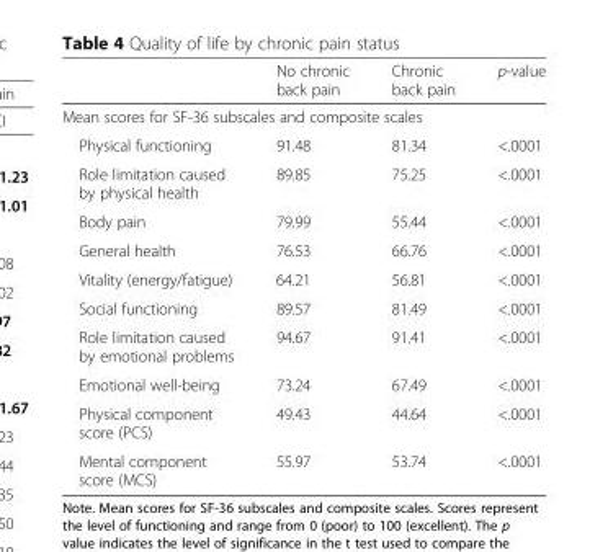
<table><thead><tr><td></td><td>No chronic back pain</td><td>Chronic back pain</td><td>p-value</td></tr></thead><tbody><tr><td colspan="4">Mean scores for SF-36 subscales and composite scales</td></tr><tr><td>Physical functioning</td><td>91.48</td><td>81.34</td><td>&lt;.0001</td></tr><tr><td>Role limitation caused by physical health</td><td>89.85</td><td>75.25</td><td>&lt;.0001</td></tr><tr><td>Body pain</td><td>79.99</td><td>55.44</td><td>&lt;.0001</td></tr><tr><td>General health</td><td>76.53</td><td>66.76</td><td>&lt;.0001</td></tr><tr><td>Vitality (energy/fatigue)</td><td>64.21</td><td>56.81</td><td>&lt;.0001</td></tr><tr><td>Social functioning</td><td>89.57</td><td>81.49</td><td>&lt;.0001</td></tr><tr><td>Role limitation caused by emotional problems</td><td>94.67</td><td>91.41</td><td>&lt;.0001</td></tr><tr><td>Emotional well-being</td><td>73.24</td><td>67.49</td><td>&lt;.0001</td></tr><tr><td>Physical component score (PCS)</td><td>49.43</td><td>44.64</td><td>&lt;.0001</td></tr><tr><td>Mental component score (MCS)</td><td>55.97</td><td>53.74</td><td>&lt;.0001</td></tr></tbody></table>